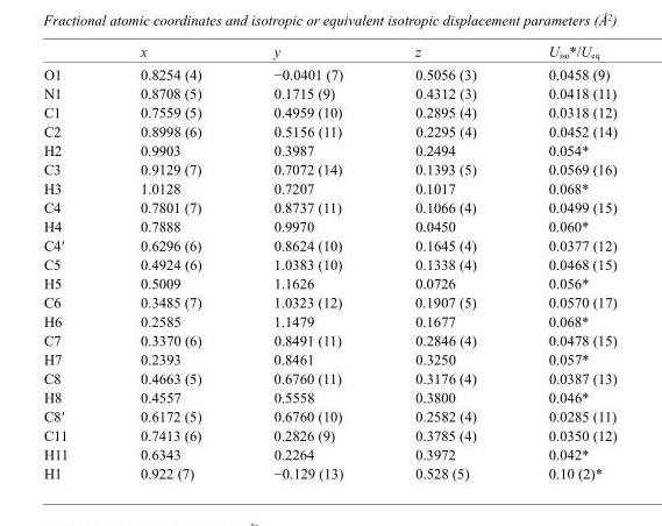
<table><thead><tr><td></td><td>x</td><td>y</td><td>z</td><td>U<sub>iso</sub>*/U<sub>eq</sub></td></tr></thead><tbody><tr><td>O1</td><td>0.8254 (4)</td><td>−0.0401 (7)</td><td>0.5056 (3)</td><td>0.0458 (9)</td></tr><tr><td>N1</td><td>0.8708 (5)</td><td>0.1715 (9)</td><td>0.4312 (3)</td><td>0.0418 (11)</td></tr><tr><td>C1</td><td>0.7559 (5)</td><td>0.4959 (10)</td><td>0.2895 (4)</td><td>0.0318 (12)</td></tr><tr><td>C2</td><td>0.8998 (6)</td><td>0.5156 (11)</td><td>0.2295 (4)</td><td>0.0452 (14)</td></tr><tr><td>H2</td><td>0.9903</td><td>0.3987</td><td>0.2494</td><td>0.054*</td></tr><tr><td>C3</td><td>0.9129 (7)</td><td>0.7072 (14)</td><td>0.1393 (5)</td><td>0.0569 (16)</td></tr><tr><td>H3</td><td>1.0128</td><td>0.7207</td><td>0.1017</td><td>0.068*</td></tr><tr><td>C4</td><td>0.7801 (7)</td><td>0.8737 (11)</td><td>0.1066 (4)</td><td>0.0499 (15)</td></tr><tr><td>H4</td><td>0.7888</td><td>0.9970</td><td>0.0450</td><td>0.060*</td></tr><tr><td>C4′</td><td>0.6296 (6)</td><td>0.8624 (10)</td><td>0.1645 (4)</td><td>0.0377 (12)</td></tr><tr><td>C5</td><td>0.4924 (6)</td><td>1.0383 (10)</td><td>0.1338 (4)</td><td>0.0468 (15)</td></tr><tr><td>H5</td><td>0.5009</td><td>1.1626</td><td>0.0726</td><td>0.056*</td></tr><tr><td>C6</td><td>0.3485 (7)</td><td>1.0323 (12)</td><td>0.1907 (5)</td><td>0.0570 (17)</td></tr><tr><td>H6</td><td>0.2585</td><td>1.1479</td><td>0.1677</td><td>0.068*</td></tr><tr><td>C7</td><td>0.3370 (6)</td><td>0.8491 (11)</td><td>0.2846 (4)</td><td>0.0478 (15)</td></tr><tr><td>H7</td><td>0.2393</td><td>0.8461</td><td>0.3250</td><td>0.057*</td></tr><tr><td>C8</td><td>0.4663 (5)</td><td>0.6760 (11)</td><td>0.3176 (4)</td><td>0.0387 (13)</td></tr><tr><td>H8</td><td>0.4557</td><td>0.5558</td><td>0.3800</td><td>0.046*</td></tr><tr><td>C8′</td><td>0.6172 (5)</td><td>0.6760 (10)</td><td>0.2582 (4)</td><td>0.0285 (11)</td></tr><tr><td>C11</td><td>0.7413 (6)</td><td>0.2826 (9)</td><td>0.3785 (4)</td><td>0.0350 (12)</td></tr><tr><td>H11</td><td>0.6343</td><td>0.2264</td><td>0.3972</td><td>0.042*</td></tr><tr><td>H1</td><td>0.922 (7)</td><td>−0.129 (13)</td><td>0.528 (5)</td><td>0.10 (2)*</td></tr></tbody></table>